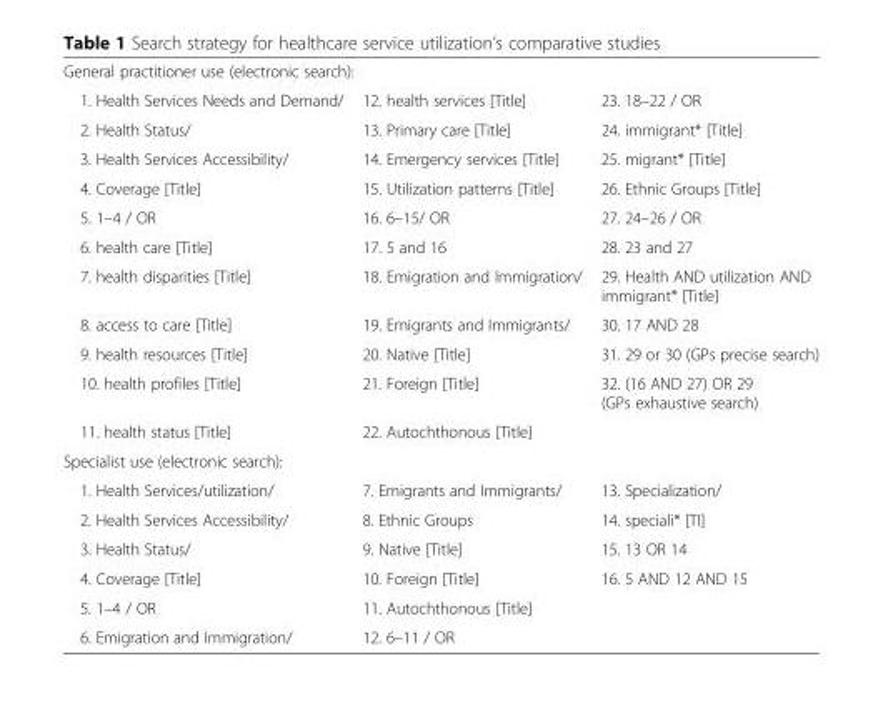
<table><tbody><tr><td colspan="3">General practitioner use (electronic search):</td></tr><tr><td>1. Health Services Needs and Demand/</td><td>12. health services [Title]</td><td>23. 18–22 / OR</td></tr><tr><td>2. Health Status/</td><td>13. Primary care [Title]</td><td>24. immigrant* [Title]</td></tr><tr><td>3. Health Services Accessibility/</td><td>14. Emergency services [Title]</td><td>25. migrant* [Title]</td></tr><tr><td>4. Coverage [Title]</td><td>15. Utilization patterns [Title]</td><td>26. Ethnic Groups [Title]</td></tr><tr><td>5. 1–4 / OR</td><td>16. 6–15/ OR</td><td>27. 24–26 / OR</td></tr><tr><td>6. health care [Title]</td><td>17. 5 and 16</td><td>28. 23 and 27</td></tr><tr><td>7. health disparities [Title]</td><td>18. Emigration and Immigration/</td><td>29. Health AND utilization AND immigrant* [Title]</td></tr><tr><td>8. access to care [Title]</td><td>19. Emigrants and Immigrants/</td><td>30. 17 AND 28</td></tr><tr><td>9. health resources [Title]</td><td>20. Native [Title]</td><td>31. 29 or 30 (GPs precise search)</td></tr><tr><td>10. health profiles [Title]</td><td>21. Foreign [Title]</td><td>32. (16 AND 27) OR 29 (GPs exhaustive search)</td></tr><tr><td>11. health status [Title]</td><td>22. Autochthonous [Title]</td><td></td></tr><tr><td colspan="3">Specialist use (electronic search):</td></tr><tr><td>1. Health Services/utilization/</td><td>7. Emigrants and Immigrants/</td><td>13. Specialization/</td></tr><tr><td>2. Health Services Accessibility/</td><td>8. Ethnic Groups</td><td>14. speciali* [TI]</td></tr><tr><td>3. Health Status/</td><td>9. Native [Title]</td><td>15. 13 OR 14</td></tr><tr><td>4. Coverage [Title]</td><td>10. Foreign [Title]</td><td>16. 5 AND 12 AND 15</td></tr><tr><td>5. 1–4 / OR</td><td>11. Autochthonous [Title]</td><td></td></tr><tr><td>6. Emigration and Immigration/</td><td>12. 6–11 / OR</td><td></td></tr></tbody></table>